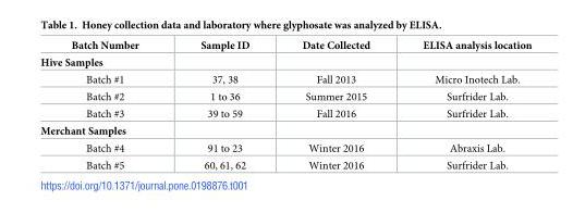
<table><thead><tr><td>Batch Number</td><td>Sample ID</td><td>Date Collected</td><td>ELISA analysis location</td></tr></thead><tbody><tr><td colspan="4">Hive Samples</td></tr><tr><td>Batch #1</td><td>37, 38</td><td>Fall 2013</td><td>Micro Inotech Lab.</td></tr><tr><td>Batch #2</td><td>1 to 36</td><td>Summer 2015</td><td>Surfrider Lab.</td></tr><tr><td>Batch #3</td><td>39 to 59</td><td>Fall 2016</td><td>Surfrider Lab.</td></tr><tr><td colspan="4">Merchant Samples</td></tr><tr><td>Batch #4</td><td>91 to 23</td><td>Winter 2016</td><td>Abraxis Lab.</td></tr><tr><td>Batch #5</td><td>60, 61, 62</td><td>Winter 2016</td><td>Surfrider Lab.</td></tr></tbody></table>